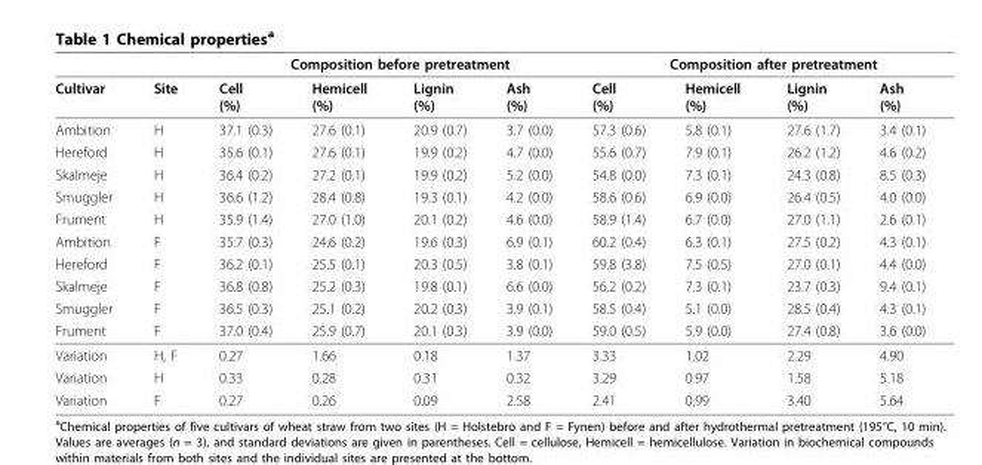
<table><thead><tr><td rowspan="2">Cultivar</td><td rowspan="2">Site</td><td colspan="4">Composition before pretreatment</td><td colspan="4">Composition after pretreatment</td></tr><tr><td>Cell (%)</td><td>Hemicell (%)</td><td>Lignin (%)</td><td>Ash (%)</td><td>Cell (%)</td><td>Hemicell (%)</td><td>Lignin (%)</td><td>Ash (%)</td></tr></thead><tbody><tr><td>Ambition</td><td>H</td><td>37.1 (0.3)</td><td>27.6 (0.1)</td><td>20.9 (0.7)</td><td>3.7 (0.0)</td><td>57.3 (0.6)</td><td>5.8 (0.1)</td><td>27.6 (1.7)</td><td>3.4 (0.1)</td></tr><tr><td>Hereford</td><td>H</td><td>35.6 (0.1)</td><td>27.6 (0.1)</td><td>19.9 (0.2)</td><td>4.7 (0.0)</td><td>55.6 (0.7)</td><td>7.9 (0.1)</td><td>26.2 (1.2)</td><td>4.6 (0.2)</td></tr><tr><td>Skalmeje</td><td>H</td><td>36.4 (0.2)</td><td>27.2 (0.1)</td><td>19.9 (0.2)</td><td>5.2 (0.0)</td><td>54.8 (0.0)</td><td>7.3 (0.1)</td><td>24.3 (0.8)</td><td>8.5 (0.3)</td></tr><tr><td>Smuggler</td><td>H</td><td>36.6 (1.2)</td><td>28.4 (0.8)</td><td>19.3 (0.1)</td><td>4.2 (0.0)</td><td>58.6 (0.6)</td><td>6.9 (0.0)</td><td>26.4 (0.5)</td><td>4.0 (0.0)</td></tr><tr><td>Frument</td><td>H</td><td>35.9 (1.4)</td><td>27.0 (1.0)</td><td>20.1 (0.2)</td><td>4.6 (0.0)</td><td>58.9 (1.4)</td><td>6.7 (0.0)</td><td>27.0 (1.1)</td><td>2.6 (0.1)</td></tr><tr><td>Ambition</td><td>F</td><td>35.7 (0.3)</td><td>24.6 (0.2)</td><td>19.6 (0.3)</td><td>6.9 (0.1)</td><td>60.2 (0.4)</td><td>6.3 (0.1)</td><td>27.5 (0.2)</td><td>4.3 (0.1)</td></tr><tr><td>Hereford</td><td>F</td><td>36.2 (0.1)</td><td>25.5 (0.1)</td><td>20.3 (0.5)</td><td>3.8 (0.1)</td><td>59.8 (3.8)</td><td>7.5 (0.5)</td><td>27.0 (0.1)</td><td>4.4 (0.0)</td></tr><tr><td>Skalmeje</td><td>F</td><td>36.8 (0.8)</td><td>25.2 (0.3)</td><td>19.8 (0.1)</td><td>6.6 (0.0)</td><td>56.2 (0.2)</td><td>7.3 (0.1)</td><td>23.7 (0.3)</td><td>9.4 (0.1)</td></tr><tr><td>Smuggler</td><td>F</td><td>36.5 (0.3)</td><td>25.1 (0.2)</td><td>20.2 (0.3)</td><td>3.9 (0.1)</td><td>58.5 (0.4)</td><td>5.1 (0.0)</td><td>28.5 (0.4)</td><td>4.3 (0.1)</td></tr><tr><td>Frument</td><td>F</td><td>37.0 (0.4)</td><td>25.9 (0.7)</td><td>20.1 (0.3)</td><td>3.9 (0.0)</td><td>59.0 (0.5)</td><td>5.9 (0.0)</td><td>27.4 (0.8)</td><td>3.6 (0.0)</td></tr><tr><td>Variation</td><td>H, F</td><td>0.27</td><td>1.66</td><td>0.18</td><td>1.37</td><td>3.33</td><td>1.02</td><td>2.29</td><td>4.90</td></tr><tr><td>Variation</td><td>H</td><td>0.33</td><td>0.28</td><td>0.31</td><td>0.32</td><td>3.29</td><td>0.97</td><td>1.58</td><td>5.18</td></tr><tr><td>Variation</td><td>F</td><td>0.27</td><td>0.26</td><td>0.09</td><td>2.58</td><td>2.41</td><td>0.99</td><td>3.40</td><td>5.64</td></tr></tbody></table>